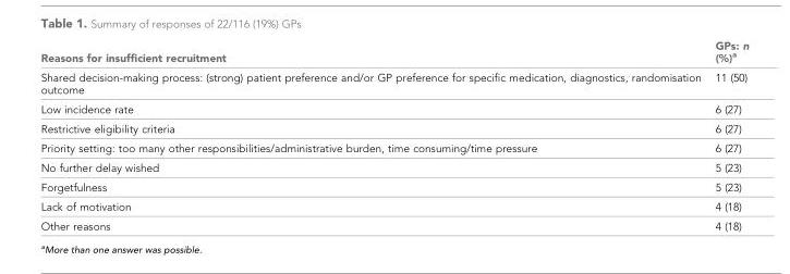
<table><thead><tr><td>Reasons for insufficient recruitment</td><td>GPs: n (%)<sup>a</sup></td></tr></thead><tbody><tr><td>Shared decision-making process: (strong) patient preference and/or GP preference for specific medication, diagnostics, randomisation outcome</td><td>11 (50)</td></tr><tr><td>Low incidence rate</td><td>6 (27)</td></tr><tr><td>Restrictive eligibility criteria</td><td>6 (27)</td></tr><tr><td>Priority setting: too many other responsibilities/administrative burden, time consuming/time pressure</td><td>6 (27)</td></tr><tr><td>No further delay wished</td><td>5 (23)</td></tr><tr><td>Forgetfulness</td><td>5 (23)</td></tr><tr><td>Lack of motivation</td><td>4 (18)</td></tr><tr><td>Other reasons</td><td>4 (18)</td></tr></tbody></table>